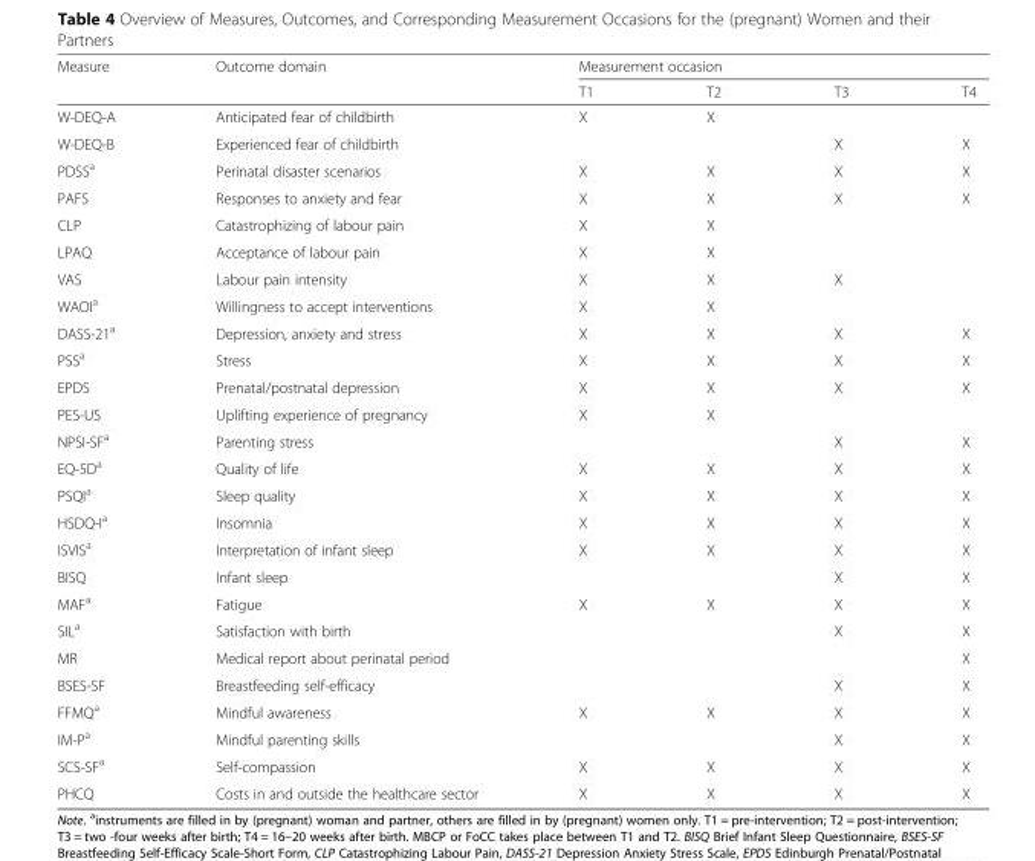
<table><thead><tr><td rowspan="2">Measure</td><td rowspan="2">Outcome domain</td><td colspan="4">Measurement occasion</td></tr><tr><td>T1</td><td>T2</td><td>T3</td><td>T4</td></tr></thead><tbody><tr><td>W-DEQ-A</td><td>Anticipated fear of childbirth</td><td>X</td><td>X</td><td></td><td></td></tr><tr><td>W-DEQ-B</td><td>Experienced fear of childbirth</td><td></td><td></td><td>X</td><td>X</td></tr><tr><td>PDSS<sup>a</sup></td><td>Perinatal disaster scenarios</td><td>X</td><td>X</td><td>X</td><td>X</td></tr><tr><td>PAFS</td><td>Responses to anxiety and fear</td><td>X</td><td>X</td><td>X</td><td>X</td></tr><tr><td>CLP</td><td>Catastrophizing of labour pain</td><td>X</td><td>X</td><td></td><td></td></tr><tr><td>LPAQ</td><td>Acceptance of labour pain</td><td>X</td><td>X</td><td></td><td></td></tr><tr><td>VAS</td><td>Labour pain intensity</td><td>X</td><td>X</td><td>X</td><td></td></tr><tr><td>WAOI<sup>a</sup></td><td>Willingness to accept interventions</td><td>X</td><td>X</td><td></td><td></td></tr><tr><td>DASS-21<sup>a</sup></td><td>Depression, anxiety and stress</td><td>X</td><td>X</td><td>X</td><td>X</td></tr><tr><td>PSS<sup>a</sup></td><td>Stress</td><td>X</td><td>X</td><td>X</td><td>X</td></tr><tr><td>EPDS</td><td>Prenatal/postnatal depression</td><td>X</td><td>X</td><td>X</td><td>X</td></tr><tr><td>PES-US</td><td>Uplifting experience of pregnancy</td><td>X</td><td>X</td><td></td><td></td></tr><tr><td>NPSI-SF<sup>a</sup></td><td>Parenting stress</td><td></td><td></td><td>X</td><td>X</td></tr><tr><td>EQ-5D<sup>a</sup></td><td>Quality of life</td><td>X</td><td>X</td><td>X</td><td>X</td></tr><tr><td>PSQI<sup>a</sup></td><td>Sleep quality</td><td>X</td><td>X</td><td>X</td><td>X</td></tr><tr><td>HSDQ-I<sup>a</sup></td><td>Insomnia</td><td>X</td><td>X</td><td>X</td><td>X</td></tr><tr><td>ISVIS<sup>a</sup></td><td>Interpretation of infant sleep</td><td>X</td><td>X</td><td>X</td><td>X</td></tr><tr><td>BISQ</td><td>Infant sleep</td><td></td><td></td><td>X</td><td>X</td></tr><tr><td>MAF<sup>a</sup></td><td>Fatigue</td><td>X</td><td>X</td><td>X</td><td>X</td></tr><tr><td>SIL<sup>a</sup></td><td>Satisfaction with birth</td><td></td><td></td><td>X</td><td>X</td></tr><tr><td>MR</td><td>Medical report about perinatal period</td><td></td><td></td><td></td><td>X</td></tr><tr><td>BSES-SF</td><td>Breastfeeding self-efficacy</td><td></td><td></td><td>X</td><td>X</td></tr><tr><td>FFMQ<sup>a</sup></td><td>Mindful awareness</td><td>X</td><td>X</td><td>X</td><td>X</td></tr><tr><td>IM-P<sup>a</sup></td><td>Mindful parenting skills</td><td></td><td></td><td>X</td><td>X</td></tr><tr><td>SCS-SF<sup>a</sup></td><td>Self-compassion</td><td>X</td><td>X</td><td>X</td><td>X</td></tr><tr><td>PHCQ</td><td>Costs in and outside the healthcare sector</td><td>X</td><td>X</td><td>X</td><td>X</td></tr></tbody></table>